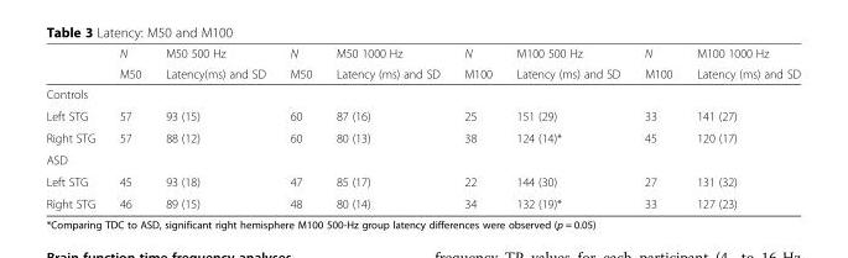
<table><thead><tr><td rowspan="2"></td><td rowspan="2">N M50</td><td rowspan="2">M50 500 Hz Latency(ms) and SD</td><td rowspan="2">N M50</td><td rowspan="2">M50 1000 Hz Latency (ms) and SD</td><td rowspan="2">N M100</td><td rowspan="2">M100 500 Hz Latency (ms) and SD</td><td rowspan="2">N M100</td><td rowspan="2">M100 1000 Hz Latency (ms) and SD</td></tr><tr></tr></thead><tbody><tr><td colspan="9">Controls</td></tr><tr><td>Left STG</td><td>57</td><td>93 (15)</td><td>60</td><td>87 (16)</td><td>25</td><td>151 (29)</td><td>33</td><td>141 (27)</td></tr><tr><td>Right STG</td><td>57</td><td>88 (12)</td><td>60</td><td>80 (13)</td><td>38</td><td>124 (14)*</td><td>45</td><td>120 (17)</td></tr><tr><td colspan="9">ASD</td></tr><tr><td>Left STG</td><td>45</td><td>93 (18)</td><td>47</td><td>85 (17)</td><td>22</td><td>144 (30)</td><td>27</td><td>131 (32)</td></tr><tr><td>Right STG</td><td>46</td><td>89 (15)</td><td>48</td><td>80 (14)</td><td>34</td><td>132 (19)*</td><td>33</td><td>127 (23)</td></tr></tbody></table>